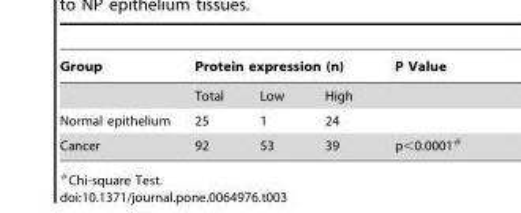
<table><thead><tr><td rowspan="2">Group</td><td colspan="3">Protein expression (n)</td><td rowspan="2">P Value</td></tr><tr><td>Total</td><td>Low</td><td>High</td></tr></thead><tbody><tr><td>Normal epithelium</td><td>25</td><td>1</td><td>24</td><td></td></tr><tr><td>Cancer</td><td>92</td><td>53</td><td>39</td><td>p&lt;0.0001#</td></tr></tbody></table>